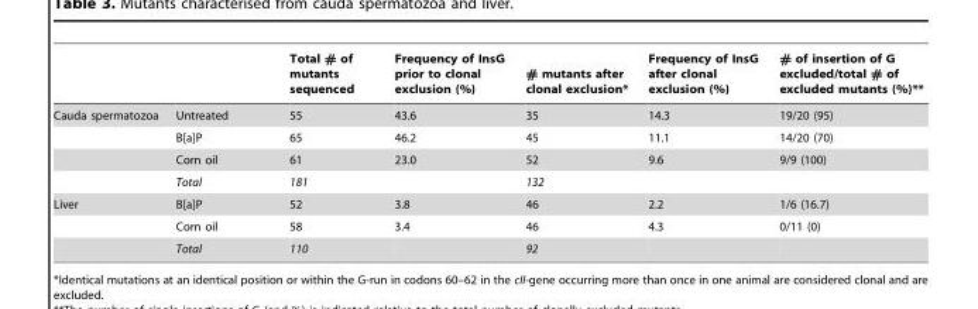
<table><thead><tr><td></td><td></td><td>Total # of mutants sequenced</td><td>Frequency of InsG prior to clonal exclusion (%)</td><td># mutants after clonal exclusion*</td><td>Frequency of InsG after clonal exclusion (%)</td><td># of insertion of G excluded/total # of excluded mutants (%)**</td></tr></thead><tbody><tr><td rowspan="4">Cauda spermatozoa</td><td>Untreated</td><td>55</td><td>43.6</td><td>35</td><td>14.3</td><td>19/20 (95)</td></tr><tr><td>B[a]P</td><td>65</td><td>46.2</td><td>45</td><td>11.1</td><td>14/20 (70)</td></tr><tr><td>Corn oil</td><td>61</td><td>23.0</td><td>52</td><td>9.6</td><td>9/9 (100)</td></tr><tr><td>Total</td><td>181</td><td></td><td>132</td><td></td><td></td></tr><tr><td rowspan="3">Liver</td><td>B[a]P</td><td>52</td><td>3.8</td><td>46</td><td>2.2</td><td>1/6 (16.7)</td></tr><tr><td>Corn oil</td><td>58</td><td>3.4</td><td>46</td><td>4.3</td><td>0/11 (0)</td></tr><tr><td>Total</td><td>110</td><td></td><td>92</td><td></td><td></td></tr></tbody></table>